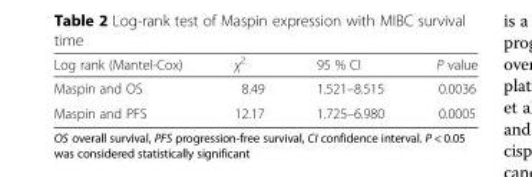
<table><thead><tr><td>Log rank (Mantel-Cox)</td><td>χ<sup>2</sup></td><td>95 % CI</td><td>P value</td></tr></thead><tbody><tr><td>Maspin and OS</td><td>8.49</td><td>1.521–8.515</td><td>0.0036</td></tr><tr><td>Maspin and PFS</td><td>12.17</td><td>1.725–6.980</td><td>0.0005</td></tr></tbody></table>